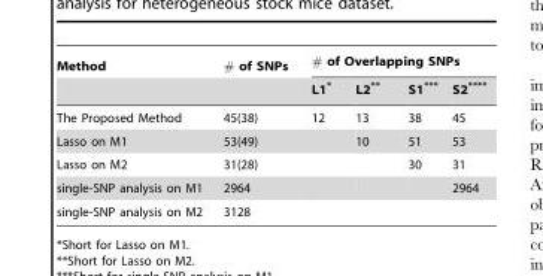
<table><thead><tr><td rowspan="2">Method</td><td rowspan="2"># of SNPs</td><td colspan="4"># of Overlapping SNPs</td></tr><tr><td>L1*</td><td>L2**</td><td>S1***</td><td>S2****</td></tr></thead><tbody><tr><td>The Proposed Method</td><td>45(38)</td><td>12</td><td>13</td><td>38</td><td>45</td></tr><tr><td>Lasso on M1</td><td>53(49)</td><td></td><td>10</td><td>51</td><td>53</td></tr><tr><td>Lasso on M2</td><td>31(28)</td><td></td><td></td><td>30</td><td>31</td></tr><tr><td>single-SNP analysis on M1</td><td>2964</td><td></td><td></td><td></td><td>2964</td></tr><tr><td>single-SNP analysis on M2</td><td>3128</td><td></td><td></td><td></td><td></td></tr></tbody></table>